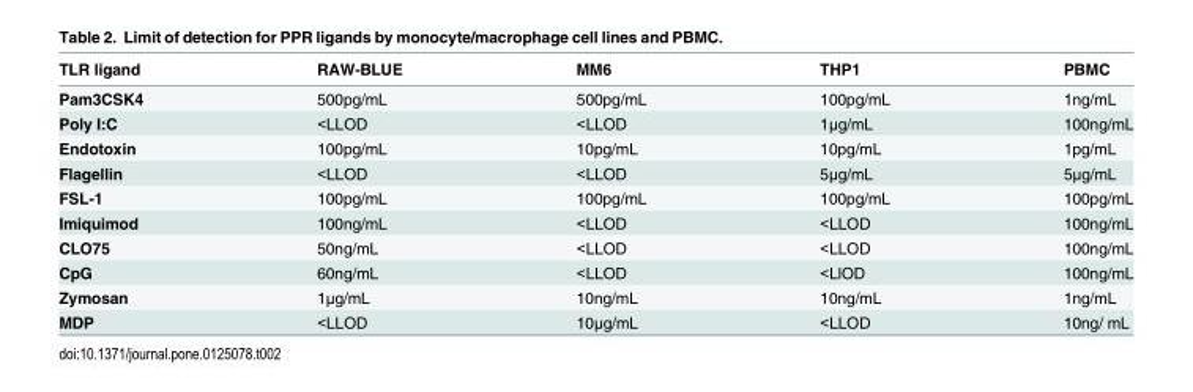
<table><thead><tr><td>TLR ligand</td><td>RAW-BLUE</td><td>MM6</td><td>THP1</td><td>PBMC</td></tr></thead><tbody><tr><td>Pam3CSK4</td><td>500pg/mL</td><td>500pg/mL</td><td>100pg/mL</td><td>1ng/mL</td></tr><tr><td>Poly I:C</td><td>&lt;LLOD</td><td>&lt;LLOD</td><td>1μg/mL</td><td>100ng/mL</td></tr><tr><td>Endotoxin</td><td>100pg/mL</td><td>10pg/mL</td><td>10pg/mL</td><td>1pg/mL</td></tr><tr><td>Flagellin</td><td>&lt;LLOD</td><td>&lt;LLOD</td><td>5μg/mL</td><td>5μg/mL</td></tr><tr><td>FSL-1</td><td>100pg/mL</td><td>100pg/mL</td><td>100pg/mL</td><td>100pg/mL</td></tr><tr><td>Imiquimod</td><td>100ng/mL</td><td>&lt;LLOD</td><td>&lt;LLOD</td><td>100ng/mL</td></tr><tr><td>CLO75</td><td>50ng/mL</td><td>&lt;LLOD</td><td>&lt;LLOD</td><td>100ng/mL</td></tr><tr><td>CpG</td><td>60ng/mL</td><td>&lt;LLOD</td><td>&lt;LlOD</td><td>100ng/mL</td></tr><tr><td>Zymosan</td><td>1μg/mL</td><td>10ng/mL</td><td>10ng/mL</td><td>1ng/mL</td></tr><tr><td>MDP</td><td>&lt;LLOD</td><td>10μg/mL</td><td>&lt;LLOD</td><td>10ng/ mL</td></tr></tbody></table>